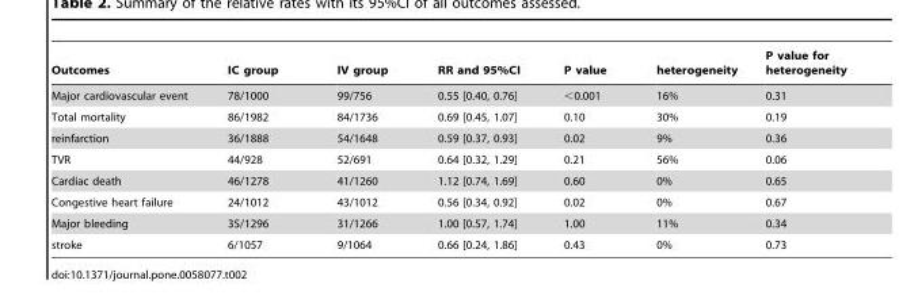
<table><thead><tr><td>Outcomes</td><td>IC group</td><td>IV group</td><td>RR and 95%CI</td><td>P value</td><td>heterogeneity</td><td>P value for heterogeneity</td></tr></thead><tbody><tr><td>Major cardiovascular event</td><td>78/1000</td><td>99/756</td><td>0.55 [0.40, 0.76]</td><td>&lt;0.001</td><td>16%</td><td>0.31</td></tr><tr><td>Total mortality</td><td>86/1982</td><td>84/1736</td><td>0.69 [0.45, 1.07]</td><td>0.10</td><td>30%</td><td>0.19</td></tr><tr><td>reinfarction</td><td>36/1888</td><td>54/1648</td><td>0.59 [0.37, 0.93]</td><td>0.02</td><td>9%</td><td>0.36</td></tr><tr><td>TVR</td><td>44/928</td><td>52/691</td><td>0.64 [0.32, 1.29]</td><td>0.21</td><td>56%</td><td>0.06</td></tr><tr><td>Cardiac death</td><td>46/1278</td><td>41/1260</td><td>1.12 [0.74, 1.69]</td><td>0.60</td><td>0%</td><td>0.65</td></tr><tr><td>Congestive heart failure</td><td>24/1012</td><td>43/1012</td><td>0.56 [0.34, 0.92]</td><td>0.02</td><td>0%</td><td>0.67</td></tr><tr><td>Major bleeding</td><td>35/1296</td><td>31/1266</td><td>1.00 [0.57, 1.74]</td><td>1.00</td><td>11%</td><td>0.34</td></tr><tr><td>stroke</td><td>6/1057</td><td>9/1064</td><td>0.66 [0.24, 1.86]</td><td>0.43</td><td>0%</td><td>0.73</td></tr></tbody></table>